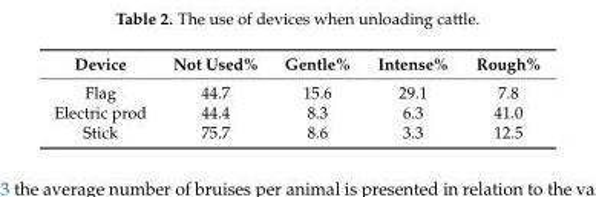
<table><thead><tr><td>Device</td><td>Not Used%</td><td>Gentle%</td><td>Intense%</td><td>Rough%</td></tr></thead><tbody><tr><td>Flag</td><td>44.7</td><td>15.6</td><td>29.1</td><td>7.8</td></tr><tr><td>Electric prod</td><td>44.4</td><td>8.3</td><td>6.3</td><td>41.0</td></tr><tr><td>Stick</td><td>75.7</td><td>8.6</td><td>3.3</td><td>12.5</td></tr></tbody></table>